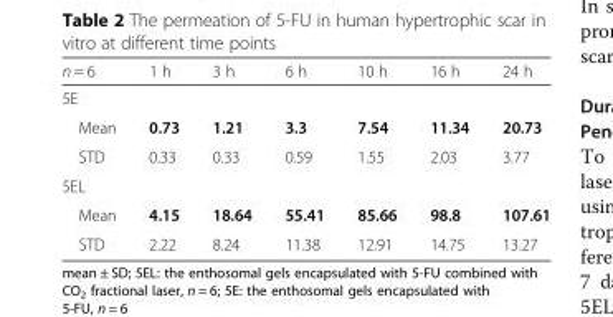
<table><thead><tr><td>n = 6</td><td>1 h</td><td>3 h</td><td>6 h</td><td>10 h</td><td>16 h</td><td>24 h</td></tr></thead><tbody><tr><td colspan="7">5E</td></tr><tr><td>Mean</td><td>0.73</td><td>1.21</td><td>3.3</td><td>7.54</td><td>11.34</td><td>20.73</td></tr><tr><td>STD</td><td>0.33</td><td>0.33</td><td>0.59</td><td>1.55</td><td>2.03</td><td>3.77</td></tr><tr><td colspan="7">5EL</td></tr><tr><td>Mean</td><td>4.15</td><td>18.64</td><td>55.41</td><td>85.66</td><td>98.8</td><td>107.61</td></tr><tr><td>STD</td><td>2.22</td><td>8.24</td><td>11.38</td><td>12.91</td><td>14.75</td><td>13.27</td></tr></tbody></table>